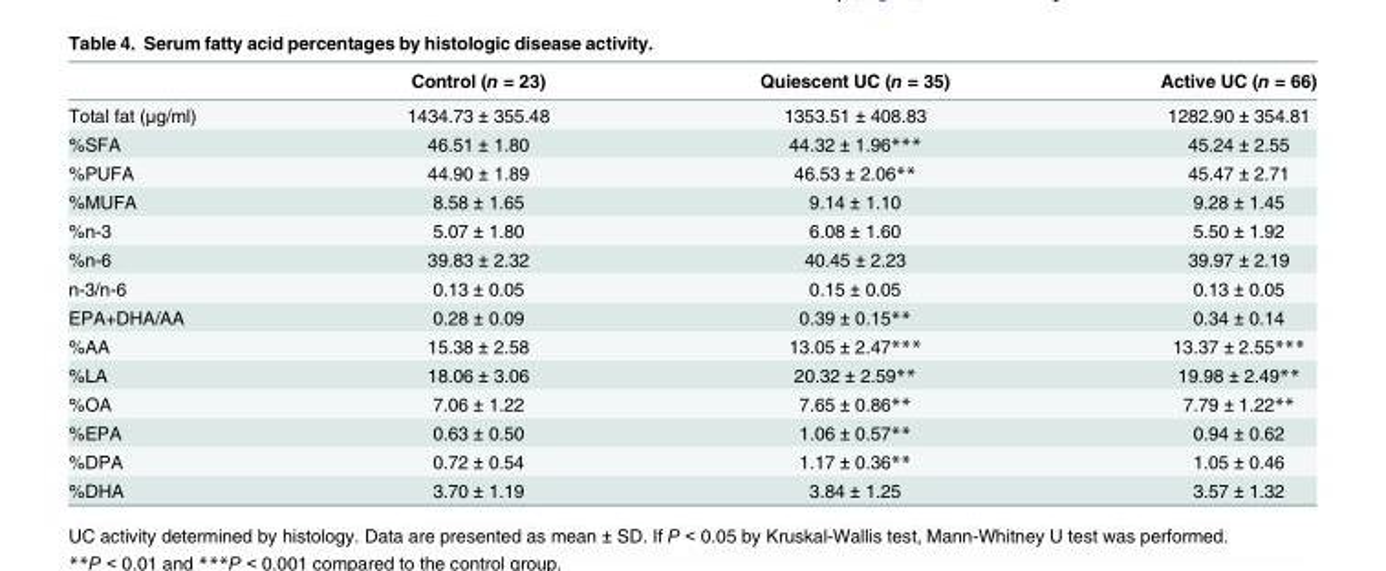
<table><thead><tr><td></td><td>Control (n = 23)</td><td>Quiescent UC (n = 35)</td><td>Active UC (n = 66)</td></tr></thead><tbody><tr><td>Total fat (μg/ml)</td><td>1434.73 ± 355.48</td><td>1353.51 ± 408.83</td><td>1282.90 ± 354.81</td></tr><tr><td>%SFA</td><td>46.51 ± 1.80</td><td>44.32 ± 1.96***</td><td>45.24 ± 2.55</td></tr><tr><td>%PUFA</td><td>44.90 ± 1.89</td><td>46.53 ± 2.06**</td><td>45.47 ± 2.71</td></tr><tr><td>%MUFA</td><td>8.58 ± 1.65</td><td>9.14 ± 1.10</td><td>9.28 ± 1.45</td></tr><tr><td>%n-3</td><td>5.07 ± 1.80</td><td>6.08 ± 1.60</td><td>5.50 ± 1.92</td></tr><tr><td>%n-6</td><td>39.83 ± 2.32</td><td>40.45 ± 2.23</td><td>39.97 ± 2.19</td></tr><tr><td>n-3/n-6</td><td>0.13 ± 0.05</td><td>0.15 ± 0.05</td><td>0.13 ± 0.05</td></tr><tr><td>EPA+DHA/AA</td><td>0.28 ± 0.09</td><td>0.39 ± 0.15**</td><td>0.34 ± 0.14</td></tr><tr><td>%AA</td><td>15.38 ± 2.58</td><td>13.05 ± 2.47***</td><td>13.37 ± 2.55***</td></tr><tr><td>%LA</td><td>18.06 ± 3.06</td><td>20.32 ± 2.59**</td><td>19.98 ± 2.49**</td></tr><tr><td>%OA</td><td>7.06 ± 1.22</td><td>7.65 ± 0.86**</td><td>7.79 ± 1.22**</td></tr><tr><td>%EPA</td><td>0.63 ± 0.50</td><td>1.06 ± 0.57**</td><td>0.94 ± 0.62</td></tr><tr><td>%DPA</td><td>0.72 ± 0.54</td><td>1.17 ± 0.36**</td><td>1.05 ± 0.46</td></tr><tr><td>%DHA</td><td>3.70 ± 1.19</td><td>3.84 ± 1.25</td><td>3.57 ± 1.32</td></tr></tbody></table>